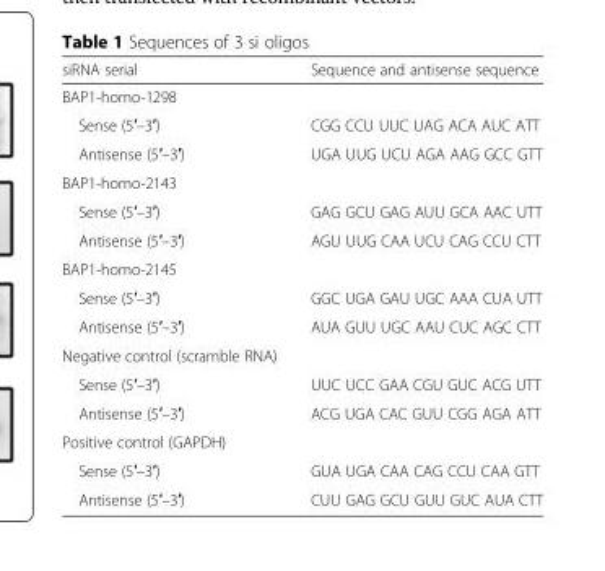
<table><thead><tr><td>siRNA serial</td><td>Sequence and antisense sequence</td></tr></thead><tbody><tr><td colspan="2">BAP1-homo-1298</td></tr><tr><td>Sense (5′–3′)</td><td>CGG CCU UUC UAG ACA AUC ATT</td></tr><tr><td>Antisense (5′–3′)</td><td>UGA UUG UCU AGA AAG GCC GTT</td></tr><tr><td colspan="2">BAP1-homo-2143</td></tr><tr><td>Sense (5′–3′)</td><td>GAG GCU GAG AUU GCA AAC UTT</td></tr><tr><td>Antisense (5′–3′)</td><td>AGU UUG CAA UCU CAG CCU CTT</td></tr><tr><td colspan="2">BAP1-homo-2145</td></tr><tr><td>Sense (5′–3′)</td><td>GGC UGA GAU UGC AAA CUA UTT</td></tr><tr><td>Antisense (5′–3′)</td><td>AUA GUU UGC AAU CUC AGC CTT</td></tr><tr><td colspan="2">Negative control (scramble RNA)</td></tr><tr><td>Sense (5′–3′)</td><td>UUC UCC GAA CGU GUC ACG UTT</td></tr><tr><td>Antisense (5′–3′)</td><td>ACG UGA CAC GUU CGG AGA ATT</td></tr><tr><td colspan="2">Positive control (GAPDH)</td></tr><tr><td>Sense (5′–3′)</td><td>GUA UGA CAA CAG CCU CAA GTT</td></tr><tr><td>Antisense (5′–3′)</td><td>CUU GAG GCU GUU GUC AUA CTT</td></tr></tbody></table>